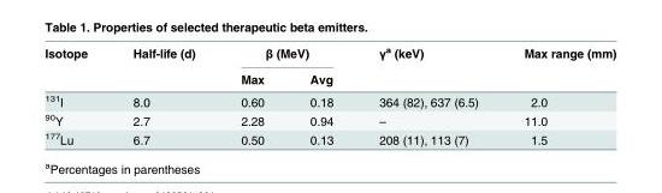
<table><thead><tr><td rowspan="2">Isotope</td><td rowspan="2">Half-life (d)</td><td colspan="2">β (MeV)</td><td rowspan="2">γ<sup>a</sup> (keV)</td><td rowspan="2">Max range (mm)</td></tr><tr><td>Max</td><td>Avg</td></tr></thead><tbody><tr><td><sup>131</sup>I</td><td>8.0</td><td>0.60</td><td>0.18</td><td>364 (82), 637 (6.5)</td><td>2.0</td></tr><tr><td><sup>90</sup>Y</td><td>2.7</td><td>2.28</td><td>0.94</td><td>–</td><td>11.0</td></tr><tr><td><sup>177</sup>Lu</td><td>6.7</td><td>0.50</td><td>0.13</td><td>208 (11), 113 (7)</td><td>1.5</td></tr></tbody></table>